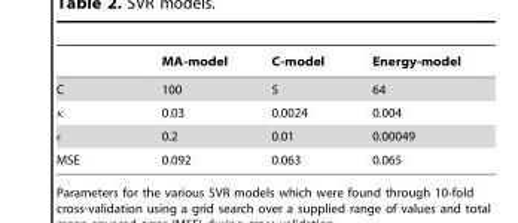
<table><thead><tr><td></td><td>MA-model</td><td>C-model</td><td>Energy-model</td></tr></thead><tbody><tr><td rowspan="3">C k �</td><td>100</td><td>5</td><td>64</td></tr><tr><td>0.03</td><td>0.0024</td><td>0.004</td></tr><tr><td>0.2</td><td>0.01</td><td>0.00049</td></tr><tr><td>MSE</td><td>0.092</td><td>0.063</td><td>0.065</td></tr></tbody></table>